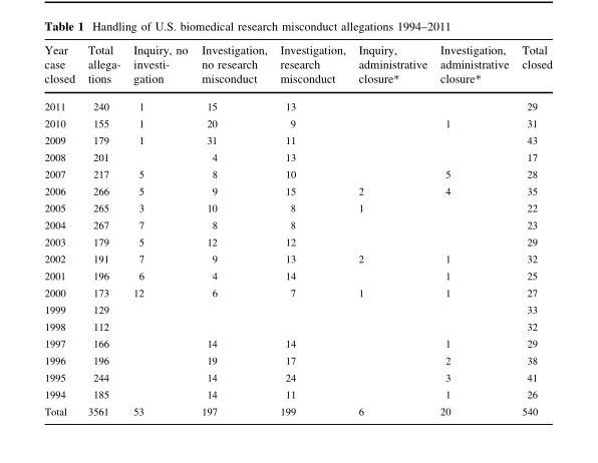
<table><thead><tr><td>Year case closed</td><td>Total allega- tions</td><td>Inquiry, no investi- gation</td><td>Investigation, no research misconduct</td><td>Investigation, research misconduct</td><td>Inquiry, administrative closure*</td><td>Investigation, administrative closure*</td><td>Total closed</td></tr></thead><tbody><tr><td>2011</td><td>240</td><td>1</td><td>15</td><td>13</td><td></td><td></td><td>29</td></tr><tr><td>2010</td><td>155</td><td>1</td><td>20</td><td>9</td><td></td><td>1</td><td>31</td></tr><tr><td>2009</td><td>179</td><td>1</td><td>31</td><td>11</td><td></td><td></td><td>43</td></tr><tr><td>2008</td><td>201</td><td></td><td>4</td><td>13</td><td></td><td></td><td>17</td></tr><tr><td>2007</td><td>217</td><td>5</td><td>8</td><td>10</td><td></td><td>5</td><td>28</td></tr><tr><td>2006</td><td>266</td><td>5</td><td>9</td><td>15</td><td>2</td><td>4</td><td>35</td></tr><tr><td>2005</td><td>265</td><td>3</td><td>10</td><td>8</td><td>1</td><td></td><td>22</td></tr><tr><td>2004</td><td>267</td><td>7</td><td>8</td><td>8</td><td></td><td></td><td>23</td></tr><tr><td>2003</td><td>179</td><td>5</td><td>12</td><td>12</td><td></td><td></td><td>29</td></tr><tr><td>2002</td><td>191</td><td>7</td><td>9</td><td>13</td><td>2</td><td>1</td><td>32</td></tr><tr><td>2001</td><td>196</td><td>6</td><td>4</td><td>14</td><td></td><td>1</td><td>25</td></tr><tr><td>2000</td><td>173</td><td>12</td><td>6</td><td>7</td><td>1</td><td>1</td><td>27</td></tr><tr><td>1999</td><td>129</td><td></td><td></td><td></td><td></td><td></td><td>33</td></tr><tr><td>1998</td><td>112</td><td></td><td></td><td></td><td></td><td></td><td>32</td></tr><tr><td>1997</td><td>166</td><td></td><td>14</td><td>14</td><td></td><td>1</td><td>29</td></tr><tr><td>1996</td><td>196</td><td></td><td>19</td><td>17</td><td></td><td>2</td><td>38</td></tr><tr><td>1995</td><td>244</td><td></td><td>14</td><td>24</td><td></td><td>3</td><td>41</td></tr><tr><td>1994</td><td>185</td><td></td><td>14</td><td>11</td><td></td><td>1</td><td>26</td></tr><tr><td>Total</td><td>3561</td><td>53</td><td>197</td><td>199</td><td>6</td><td>20</td><td>540</td></tr></tbody></table>